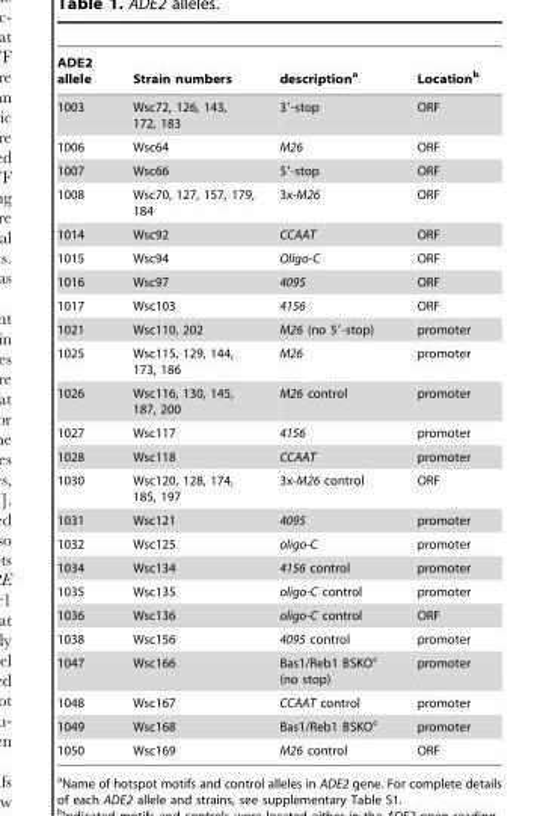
<table><thead><tr><td>ADE2 allele</td><td>Strain numbers</td><td>description<sup>a</sup></td><td>Location<sup>b</sup></td></tr></thead><tbody><tr><td>1003</td><td>Wsc72, 126, 143, 172, 183</td><td>3′-stop</td><td>ORF</td></tr><tr><td>1006</td><td>Wsc64</td><td>M26</td><td>ORF</td></tr><tr><td>1007</td><td>Wsc66</td><td>5′-stop</td><td>ORF</td></tr><tr><td>1008</td><td>Wsc70, 127, 157, 179, 184</td><td>3x-M26</td><td>ORF</td></tr><tr><td>1014</td><td>Wsc92</td><td>CCAAT</td><td>ORF</td></tr><tr><td>1015</td><td>Wsc94</td><td>Oligo-C</td><td>ORF</td></tr><tr><td>1016</td><td>Wsc97</td><td>4095</td><td>ORF</td></tr><tr><td>1017</td><td>Wsc103</td><td>4156</td><td>ORF</td></tr><tr><td>1021</td><td>Wsc110, 202</td><td>M26 (no 5′-stop)</td><td>promoter</td></tr><tr><td>1025</td><td>Wsc115, 129, 144, 173, 186</td><td>M26</td><td>promoter</td></tr><tr><td>1026</td><td>Wsc116, 130, 145, 187, 200</td><td>M26 control</td><td>promoter</td></tr><tr><td>1027</td><td>Wsc117</td><td>4156</td><td>promoter</td></tr><tr><td>1028</td><td>Wsc118</td><td>CCAAT</td><td>promoter</td></tr><tr><td>1030</td><td>Wsc120, 128, 174, 185, 197</td><td>3x-M26 control</td><td>ORF</td></tr><tr><td>1031</td><td>Wsc121</td><td>4095</td><td>promoter</td></tr><tr><td>1032</td><td>Wsc125</td><td>oligo-C</td><td>promoter</td></tr><tr><td>1034</td><td>Wsc134</td><td>4156 control</td><td>promoter</td></tr><tr><td>1035</td><td>Wsc135</td><td>oligo-C control</td><td>promoter</td></tr><tr><td>1036</td><td>Wsc136</td><td>oligo-C control</td><td>ORF</td></tr><tr><td>1038</td><td>Wsc156</td><td>4095 control</td><td>promoter</td></tr><tr><td>1047</td><td>Wsc166</td><td>Bas1/Reb1 BSKO<sup>c</sup> (no stop)</td><td>promoter</td></tr><tr><td>1048</td><td>Wsc167</td><td>CCAAT control</td><td>promoter</td></tr><tr><td>1049</td><td>Wsc168</td><td>Bas1/Reb1 BSKO<sup>c</sup></td><td>promoter</td></tr><tr><td>1050</td><td>Wsc169</td><td>M26 control</td><td>ORF</td></tr></tbody></table>